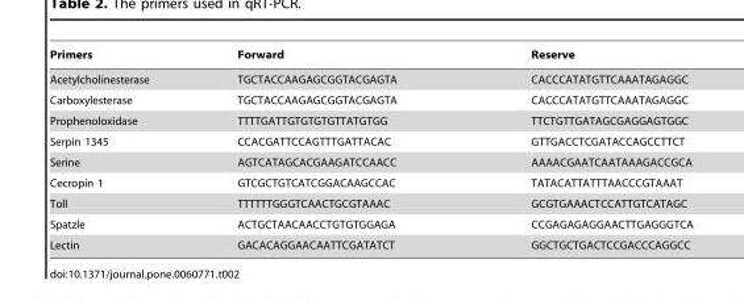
<table><thead><tr><td>Primers</td><td>Forward</td><td>Reserve</td></tr></thead><tbody><tr><td>Acetylcholinesterase</td><td>TGCTACCAAGAGCGGTACGAGTA</td><td>CACCCATATGTTCAAATAGAGGC</td></tr><tr><td>Carboxylesterase</td><td>TGCTACCAAGAGCGGTACGAGTA</td><td>CACCCATATGTTCAAATAGAGGC</td></tr><tr><td>Prophenoloxidase</td><td>TTTTGATTGTGTGTGTTATGTGG</td><td>TTCTGTTGATAGCGAGGAGTGGC</td></tr><tr><td>Serpin 1345</td><td>CCACGATTCCAGTTTGATTACAC</td><td>GTTGACCTCGATACCAGCCTTCT</td></tr><tr><td>Serine</td><td>AGTCATAGCACGAAGATCCAACC</td><td>AAAACGAATCAATAAAGACCGCA</td></tr><tr><td>Cecropin 1</td><td>GTCGCTGTCATCGGACAAGCCAC</td><td>TATACATTATTTAACCCGTAAAT</td></tr><tr><td>Toll</td><td>TTTTTTGGGTCAACTGCGTAAAC</td><td>GCGTGAAACTCCATTGTCATAGC</td></tr><tr><td>Spatzle</td><td>ACTGCTAACAACCTGTGTGGAGA</td><td>CCGAGAGAGGAACTTGAGGGTCA</td></tr><tr><td>Lectin</td><td>GACACAGGAACAATTCGATATCT</td><td>GGCTGCTGACTCCGACCCAGGCC</td></tr></tbody></table>